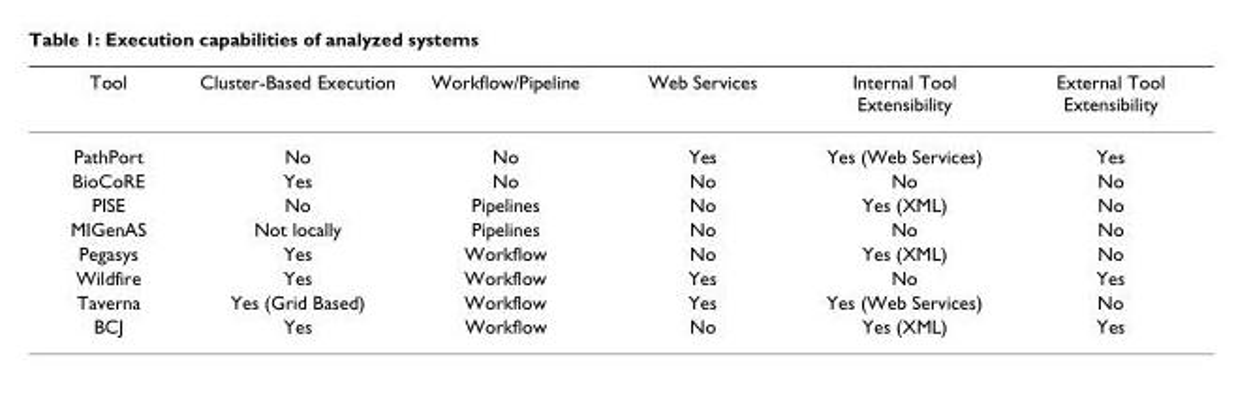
<table><thead><tr><td>Tool</td><td>Cluster-Based Execution</td><td>Workflow/Pipeline</td><td>Web Services</td><td>Internal Tool Extensibility</td><td>External Tool Extensibility</td></tr></thead><tbody><tr><td>PathPort</td><td>No</td><td>No</td><td>Yes</td><td>Yes (Web Services)</td><td>Yes</td></tr><tr><td>BioCoRE</td><td>Yes</td><td>No</td><td>No</td><td>No</td><td>No</td></tr><tr><td>PISE</td><td>No</td><td>Pipelines</td><td>No</td><td>Yes (XML)</td><td>No</td></tr><tr><td>MIGenAS</td><td>Not locally</td><td>Pipelines</td><td>No</td><td>No</td><td>No</td></tr><tr><td>Pegasys</td><td>Yes</td><td>Workflow</td><td>No</td><td>Yes (XML)</td><td>No</td></tr><tr><td>Wildfire</td><td>Yes</td><td>Workflow</td><td>Yes</td><td>No</td><td>Yes</td></tr><tr><td>Taverna</td><td>Yes (Grid Based)</td><td>Workflow</td><td>Yes</td><td>Yes (Web Services)</td><td>No</td></tr><tr><td>BCJ</td><td>Yes</td><td>Workflow</td><td>No</td><td>Yes (XML)</td><td>Yes</td></tr></tbody></table>